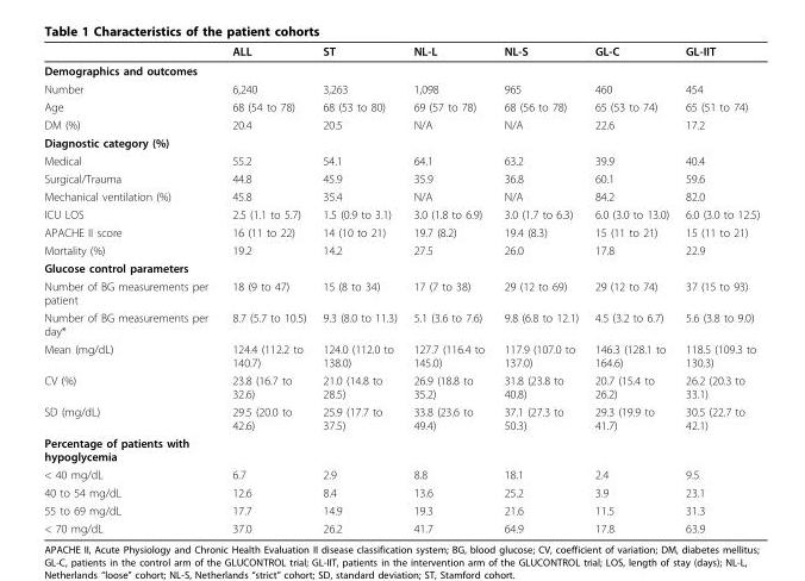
<table><thead><tr><td></td><td>ALL</td><td>ST</td><td>NL-L</td><td>NL-S</td><td>GL-C</td><td>GL-IIT</td></tr></thead><tbody><tr><td colspan="7">Demographics and outcomes</td></tr><tr><td>Number</td><td>6,240</td><td>3,263</td><td>1,098</td><td>965</td><td>460</td><td>454</td></tr><tr><td>Age</td><td>68 (54 to 78)</td><td>68 (53 to 80)</td><td>69 (57 to 78)</td><td>68 (56 to 78)</td><td>65 (53 to 74)</td><td>65 (51 to 74)</td></tr><tr><td>DM (%)</td><td>20.4</td><td>20.5</td><td>N/A</td><td>N/A</td><td>22.6</td><td>17.2</td></tr><tr><td colspan="7">Diagnostic category (%)</td></tr><tr><td>Medical</td><td>55.2</td><td>54.1</td><td>64.1</td><td>63.2</td><td>39.9</td><td>40.4</td></tr><tr><td>Surgical/Trauma</td><td>44.8</td><td>45.9</td><td>35.9</td><td>36.8</td><td>60.1</td><td>59.6</td></tr><tr><td>Mechanical ventilation (%)</td><td>45.8</td><td>35.4</td><td>N/A</td><td>N/A</td><td>84.2</td><td>82.0</td></tr><tr><td>ICU LOS</td><td>2.5 (1.1 to 5.7)</td><td>1.5 (0.9 to 3.1)</td><td>3.0 (1.8 to 6.9)</td><td>3.0 (1.7 to 6.3)</td><td>6.0 (3.0 to 13.0)</td><td>6.0 (3.0 to 12.5)</td></tr><tr><td>APACHE II score</td><td>16 (11 to 22)</td><td>14 (10 to 21)</td><td>19.7 (8.2)</td><td>19.4 (8.3)</td><td>15 (11 to 21)</td><td>15 (11 to 21)</td></tr><tr><td>Mortality (%)</td><td>19.2</td><td>14.2</td><td>27.5</td><td>26.0</td><td>17.8</td><td>22.9</td></tr><tr><td colspan="7">Glucose control parameters</td></tr><tr><td>Number of BG measurements per patient</td><td>18 (9 to 47)</td><td>15 (8 to 34)</td><td>17 (7 to 38)</td><td>29 (12 to 69)</td><td>29 (12 to 74)</td><td>37 (15 to 93)</td></tr><tr><td>Number of BG measurements per day*</td><td>8.7 (5.7 to 10.5)</td><td>9.3 (8.0 to 11.3)</td><td>5.1 (3.6 to 7.6)</td><td>9.8 (6.8 to 12.1)</td><td>4.5 (3.2 to 6.7)</td><td>5.6 (3.8 to 9.0)</td></tr><tr><td>Mean (mg/dL)</td><td>124.4 (112.2 to 140.7)</td><td>124.0 (112.0 to 138.0)</td><td>127.7 (116.4 to 145.0)</td><td>117.9 (107.0 to 137.0)</td><td>146.3 (128.1 to 164.6)</td><td>118.5 (109.3 to 130.3)</td></tr><tr><td>CV (%)</td><td>23.8 (16.7 to 32.6)</td><td>21.0 (14.8 to 28.5)</td><td>26.9 (18.8 to 35.2)</td><td>31.8 (23.8 to 40.8)</td><td>20.7 (15.4 to 26.2)</td><td>26.2 (20.3 to 33.1)</td></tr><tr><td>SD (mg/dL)</td><td>29.5 (20.0 to 42.6)</td><td>25.9 (17.7 to 37.5)</td><td>33.8 (23.6 to 49.4)</td><td>37.1 (27.3 to 50.3)</td><td>29.3 (19.9 to 41.7)</td><td>30.5 (22.7 to 42.1)</td></tr><tr><td colspan="7">Percentage of patients with hypoglycemia</td></tr><tr><td>&lt; 40 mg/dL</td><td>6.7</td><td>2.9</td><td>8.8</td><td>18.1</td><td>2.4</td><td>9.5</td></tr><tr><td>40 to 54 mg/dL</td><td>12.6</td><td>8.4</td><td>13.6</td><td>25.2</td><td>3.9</td><td>23.1</td></tr><tr><td>55 to 69 mg/dL</td><td>17.7</td><td>14.9</td><td>19.3</td><td>21.6</td><td>11.5</td><td>31.3</td></tr><tr><td>&lt; 70 mg/dL</td><td>37.0</td><td>26.2</td><td>41.7</td><td>64.9</td><td>17.8</td><td>63.9</td></tr></tbody></table>